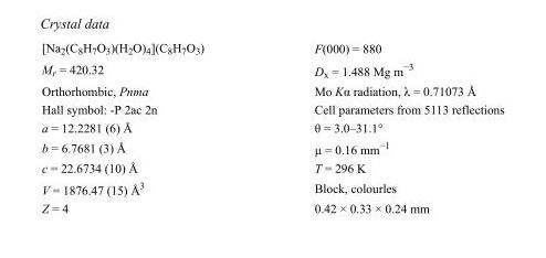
<table><tbody><tr><td>[Na<sub>2</sub>(C<sub>8</sub>H<sub>7</sub>O<sub>3</sub>)(H<sub>2</sub>O)<sub>4</sub>](C<sub>8</sub>H<sub>7</sub>O<sub>3</sub>)</td><td>F(000) = 880</td></tr><tr><td>M<sub>r</sub> = 420.32</td><td>D<sub>x</sub> = 1.488 Mg m<sup>−3</sup></td></tr><tr><td>Orthorhombic, Pnma</td><td>Mo Kα radiation, λ = 0.71073 Å</td></tr><tr><td>Hall symbol: -P 2ac 2n</td><td>Cell parameters from 5113 reflections</td></tr><tr><td>a = 12.2281 (6) Å</td><td>θ = 3.0–31.1°</td></tr><tr><td>b = 6.7681 (3) Å</td><td>µ = 0.16 mm<sup>−1</sup></td></tr><tr><td>c = 22.6734 (10) Å</td><td>T = 296 K</td></tr><tr><td>V = 1876.47 (15) Å<sup>3</sup></td><td>Block, colourles</td></tr><tr><td>Z = 4</td><td>0.42 × 0.33 × 0.24 mm</td></tr></tbody></table>